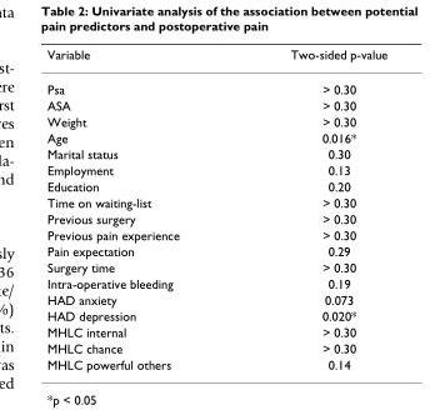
<table><thead><tr><td>Variable</td><td>Two-sided p-value</td></tr></thead><tbody><tr><td>Psa</td><td>&gt; 0.30</td></tr><tr><td>ASA</td><td>&gt; 0.30</td></tr><tr><td>Weight</td><td>&gt; 0.30</td></tr><tr><td>Age</td><td>0.016*</td></tr><tr><td>Marital status</td><td>0.30</td></tr><tr><td>Employment</td><td>0.13</td></tr><tr><td>Education</td><td>0.20</td></tr><tr><td>Time on waiting-list</td><td>&gt; 0.30</td></tr><tr><td>Previous surgery</td><td>&gt; 0.30</td></tr><tr><td>Previous pain experience</td><td>&gt; 0.30</td></tr><tr><td>Pain expectation</td><td>0.29</td></tr><tr><td>Surgery time</td><td>&gt; 0.30</td></tr><tr><td>Intra-operative bleeding</td><td>0.19</td></tr><tr><td>HAD anxiety</td><td>0.073</td></tr><tr><td>HAD depression</td><td>0.020*</td></tr><tr><td>MHLC internal</td><td>&gt; 0.30</td></tr><tr><td>MHLC chance</td><td>&gt; 0.30</td></tr><tr><td>MHLC powerful others</td><td>0.14</td></tr></tbody></table>